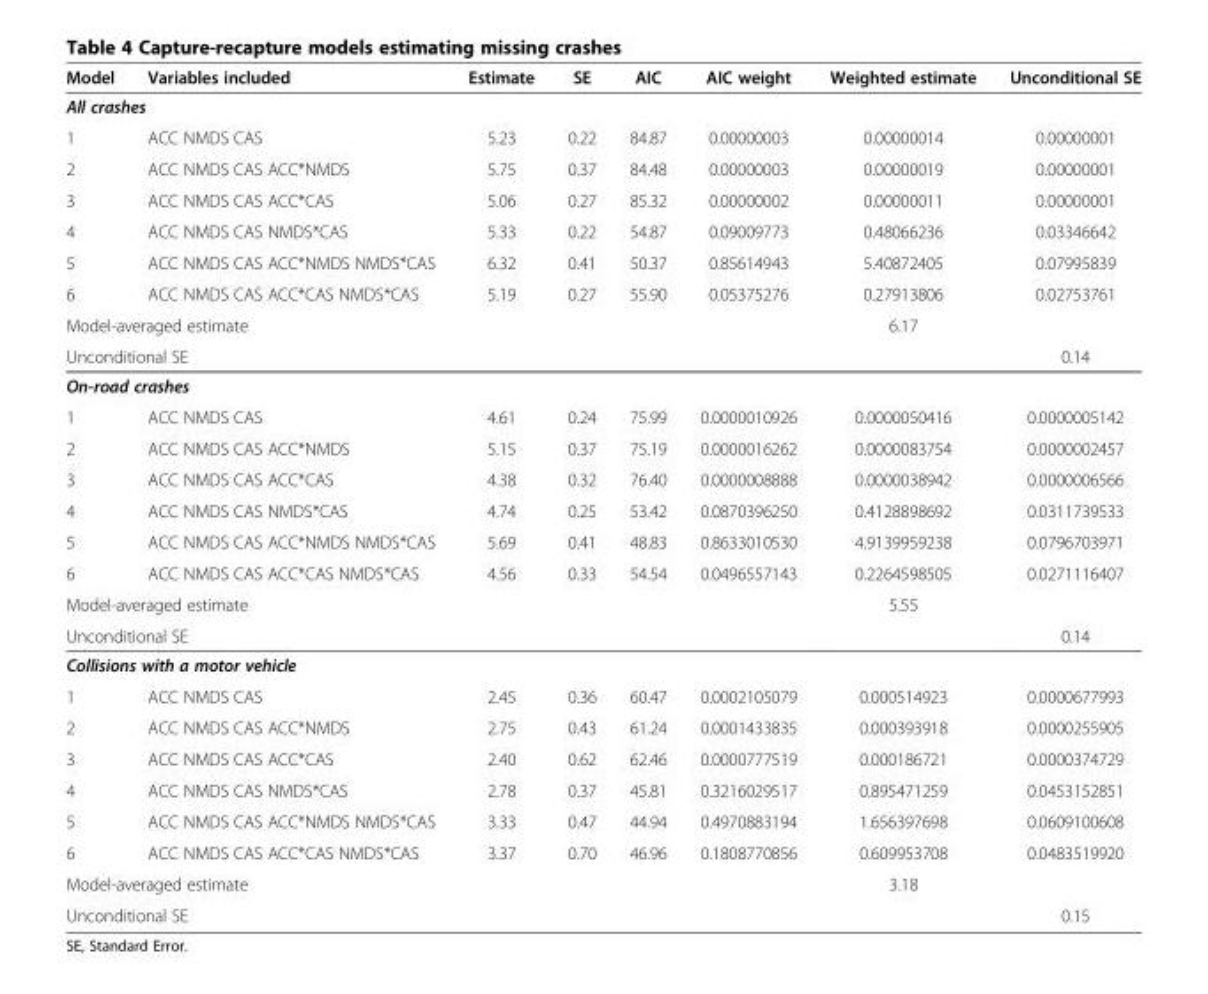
<table><thead><tr><td>Model</td><td>Variables included</td><td>Estimate</td><td>SE</td><td>AIC</td><td>AIC weight</td><td>Weighted estimate</td><td>Unconditional SE</td></tr></thead><tbody><tr><td colspan="8">All crashes</td></tr><tr><td>1</td><td>ACC NMDS CAS</td><td>5.23</td><td>0.22</td><td>84.87</td><td>0.00000003</td><td>0.00000014</td><td>0.00000001</td></tr><tr><td>2</td><td>ACC NMDS CAS ACC*NMDS</td><td>5.75</td><td>0.37</td><td>84.48</td><td>0.00000003</td><td>0.00000019</td><td>0.00000001</td></tr><tr><td>3</td><td>ACC NMDS CAS ACC*CAS</td><td>5.06</td><td>0.27</td><td>85.32</td><td>0.00000002</td><td>0.00000011</td><td>0.00000001</td></tr><tr><td>4</td><td>ACC NMDS CAS NMDS*CAS</td><td>5.33</td><td>0.22</td><td>54.87</td><td>0.09009773</td><td>0.48066236</td><td>0.03346642</td></tr><tr><td>5</td><td>ACC NMDS CAS ACC*NMDS NMDS*CAS</td><td>6.32</td><td>0.41</td><td>50.37</td><td>0.85614943</td><td>5.40872405</td><td>0.07995839</td></tr><tr><td>6</td><td>ACC NMDS CAS ACC*CAS NMDS*CAS</td><td>5.19</td><td>0.27</td><td>55.90</td><td>0.05375276</td><td>0.27913806</td><td>0.02753761</td></tr><tr><td colspan="2">Model-averaged estimate</td><td></td><td></td><td></td><td></td><td>6.17</td><td></td></tr><tr><td colspan="2">Unconditional SE</td><td></td><td></td><td></td><td></td><td></td><td>0.14</td></tr><tr><td colspan="8">On-road crashes</td></tr><tr><td>1</td><td>ACC NMDS CAS</td><td>4.61</td><td>0.24</td><td>75.99</td><td>0.0000010926</td><td>0.0000050416</td><td>0.0000005142</td></tr><tr><td>2</td><td>ACC NMDS CAS ACC*NMDS</td><td>5.15</td><td>0.37</td><td>75.19</td><td>0.0000016262</td><td>0.0000083754</td><td>0.0000002457</td></tr><tr><td>3</td><td>ACC NMDS CAS ACC*CAS</td><td>4.38</td><td>0.32</td><td>76.40</td><td>0.0000008888</td><td>0.0000038942</td><td>0.0000006566</td></tr><tr><td>4</td><td>ACC NMDS CAS NMDS*CAS</td><td>4.74</td><td>0.25</td><td>53.42</td><td>0.0870396250</td><td>0.4128898692</td><td>0.0311739533</td></tr><tr><td>5</td><td>ACC NMDS CAS ACC*NMDS NMDS*CAS</td><td>5.69</td><td>0.41</td><td>48.83</td><td>0.8633010530</td><td>4.9139959238</td><td>0.0796703971</td></tr><tr><td>6</td><td>ACC NMDS CAS ACC*CAS NMDS*CAS</td><td>4.56</td><td>0.33</td><td>54.54</td><td>0.0496557143</td><td>0.2264598505</td><td>0.0271116407</td></tr><tr><td colspan="2">Model-averaged estimate</td><td></td><td></td><td></td><td></td><td>5.55</td><td></td></tr><tr><td colspan="2">Unconditional SE</td><td></td><td></td><td></td><td></td><td></td><td>0.14</td></tr><tr><td colspan="8">Collisions with a motor vehicle</td></tr><tr><td>1</td><td>ACC NMDS CAS</td><td>2.45</td><td>0.36</td><td>60.47</td><td>0.0002105079</td><td>0.000514923</td><td>0.0000677993</td></tr><tr><td>2</td><td>ACC NMDS CAS ACC*NMDS</td><td>2.75</td><td>0.43</td><td>61.24</td><td>0.0001433835</td><td>0.000393918</td><td>0.0000255905</td></tr><tr><td>3</td><td>ACC NMDS CAS ACC*CAS</td><td>2.40</td><td>0.62</td><td>62.46</td><td>0.0000777519</td><td>0.000186721</td><td>0.0000374729</td></tr><tr><td>4</td><td>ACC NMDS CAS NMDS*CAS</td><td>2.78</td><td>0.37</td><td>45.81</td><td>0.3216029517</td><td>0.895471259</td><td>0.0453152851</td></tr><tr><td>5</td><td>ACC NMDS CAS ACC*NMDS NMDS*CAS</td><td>3.33</td><td>0.47</td><td>44.94</td><td>0.4970883194</td><td>1.656397698</td><td>0.0609100608</td></tr><tr><td>6</td><td>ACC NMDS CAS ACC*CAS NMDS*CAS</td><td>3.37</td><td>0.70</td><td>46.96</td><td>0.1808770856</td><td>0.609953708</td><td>0.0483519920</td></tr><tr><td colspan="2">Model-averaged estimate</td><td></td><td></td><td></td><td></td><td>3.18</td><td></td></tr><tr><td colspan="2">Unconditional SE</td><td></td><td></td><td></td><td></td><td></td><td>0.15</td></tr></tbody></table>